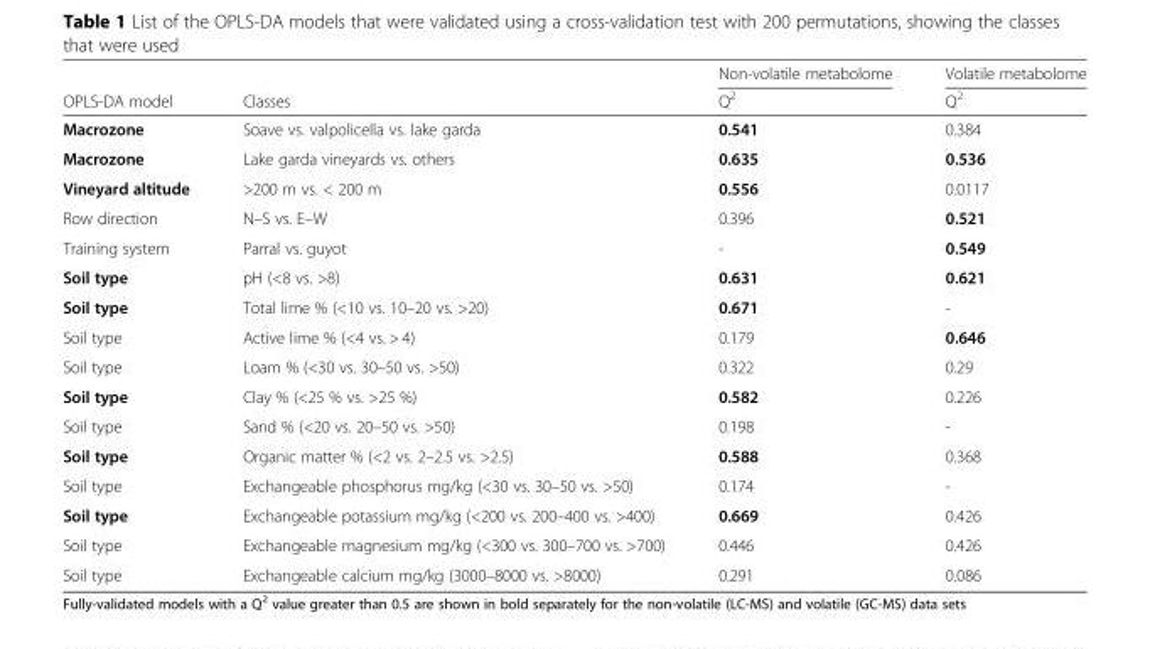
<table><thead><tr><td rowspan="2">OPLS-DA model</td><td rowspan="2">Classes</td><td rowspan="2">Non-volatile metabolome Q<sup>2</sup></td><td rowspan="2">Volatile metabolome Q<sup>2</sup></td></tr><tr></tr></thead><tbody><tr><td>Macrozone</td><td>Soave vs. valpolicella vs. lake garda</td><td>0.541</td><td>0.384</td></tr><tr><td>Macrozone</td><td>Lake garda vineyards vs. others</td><td>0.635</td><td>0.536</td></tr><tr><td>Vineyard altitude</td><td>&gt;200 m vs. &lt; 200 m</td><td>0.556</td><td>0.0117</td></tr><tr><td>Row direction</td><td>N–S vs. E–W</td><td>0.396</td><td>0.521</td></tr><tr><td>Training system</td><td>Parral vs. guyot</td><td>-</td><td>0.549</td></tr><tr><td>Soil type</td><td>pH (&lt;8 vs. &gt;8)</td><td>0.631</td><td>0.621</td></tr><tr><td>Soil type</td><td>Total lime % (&lt;10 vs. 10–20 vs. &gt;20)</td><td>0.671</td><td>-</td></tr><tr><td>Soil type</td><td>Active lime % (&lt;4 vs. &gt; 4)</td><td>0.179</td><td>0.646</td></tr><tr><td>Soil type</td><td>Loam % (&lt;30 vs. 30–50 vs. &gt;50)</td><td>0.322</td><td>0.29</td></tr><tr><td>Soil type</td><td>Clay % (&lt;25 % vs. &gt;25 %)</td><td>0.582</td><td>0.226</td></tr><tr><td>Soil type</td><td>Sand % (&lt;20 vs. 20–50 vs. &gt;50)</td><td>0.198</td><td>-</td></tr><tr><td>Soil type</td><td>Organic matter % (&lt;2 vs. 2–2.5 vs. &gt;2.5)</td><td>0.588</td><td>0.368</td></tr><tr><td>Soil type</td><td>Exchangeable phosphorus mg/kg (&lt;30 vs. 30–50 vs. &gt;50)</td><td>0.174</td><td>-</td></tr><tr><td>Soil type</td><td>Exchangeable potassium mg/kg (&lt;200 vs. 200–400 vs. &gt;400)</td><td>0.669</td><td>0.426</td></tr><tr><td>Soil type</td><td>Exchangeable magnesium mg/kg (&lt;300 vs. 300–700 vs. &gt;700)</td><td>0.446</td><td>0.426</td></tr><tr><td>Soil type</td><td>Exchangeable calcium mg/kg (3000–8000 vs. &gt;8000)</td><td>0.291</td><td>0.086</td></tr></tbody></table>